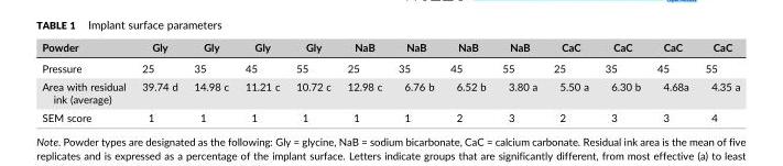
<table><thead><tr><td>Powder</td><td>Gly</td><td>Gly</td><td>Gly</td><td>Gly</td><td>NaB</td><td>NaB</td><td>NaB</td><td>NaB</td><td>CaC</td><td>CaC</td><td>CaC</td><td>CaC</td></tr></thead><tbody><tr><td>Pressure</td><td>25</td><td>35</td><td>45</td><td>55</td><td>25</td><td>35</td><td>45</td><td>55</td><td>25</td><td>35</td><td>45</td><td>55</td></tr><tr><td>Area with residual ink (average)</td><td>39.74 d</td><td>14.98 c</td><td>11.21 c</td><td>10.72 c</td><td>12.98 c</td><td>6.76 b</td><td>6.52 b</td><td>3.80 a</td><td>5.50 a</td><td>6.30 b</td><td>4.68a</td><td>4.35 a</td></tr><tr><td>SEM score</td><td>1</td><td>1</td><td>1</td><td>1</td><td>1</td><td>1</td><td>2</td><td>3</td><td>2</td><td>3</td><td>3</td><td>4</td></tr></tbody></table>